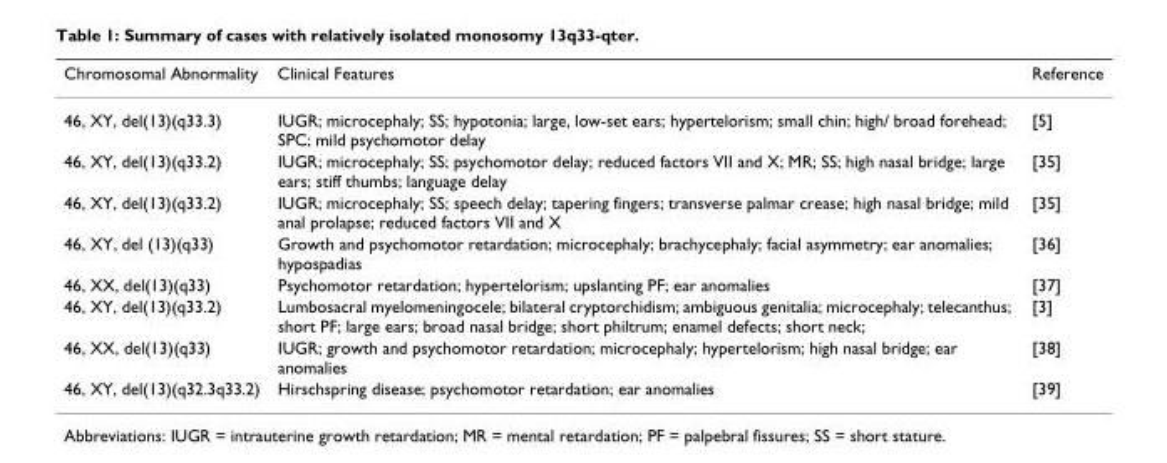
<table><thead><tr><td>Chromosomal Abnormality</td><td>Clinical Features</td><td>Reference</td></tr></thead><tbody><tr><td>46, XY, del(13)(q33.3)</td><td>IUGR; microcephaly; SS; hypotonia; large, low-set ears; hypertelorism; small chin; high/ broad forehead; SPC; mild psychomotor delay</td><td>[5]</td></tr><tr><td>46, XY, del(13)(q33.2)</td><td>IUGR; microcephaly; SS; psychomotor delay; reduced factors VII and X; MR; SS; high nasal bridge; large ears; stiff thumbs; language delay</td><td>[35]</td></tr><tr><td>46, XY, del(13)(q33.2)</td><td>IUGR; microcephaly; SS; speech delay; tapering fingers; transverse palmar crease; high nasal bridge; mild anal prolapse; reduced factors VII and X</td><td>[35]</td></tr><tr><td>46, XY, del (13)(q33)</td><td>Growth and psychomotor retardation; microcephaly; brachycephaly; facial asymmetry; ear anomalies; hypospadias</td><td>[36]</td></tr><tr><td>46, XX, del(13)(q33)</td><td>Psychomotor retardation; hypertelorism; upslanting PF; ear anomalies</td><td>[37]</td></tr><tr><td>46, XY, del(13)(q33.2)</td><td>Lumbosacral myelomeningocele; bilateral cryptorchidism; ambiguous genitalia; microcephaly; telecanthus; short PF; large ears; broad nasal bridge; short philtrum; enamel defects; short neck;</td><td>[3]</td></tr><tr><td>46, XX, del(13)(q33)</td><td>IUGR; growth and psychomotor retardation; microcephaly; hypertelorism; high nasal bridge; ear anomalies</td><td>[38]</td></tr><tr><td>46, XY, del(13)(q32.3q33.2)</td><td>Hirschspring disease; psychomotor retardation; ear anomalies</td><td>[39]</td></tr></tbody></table>